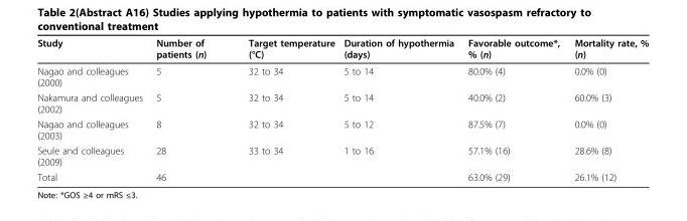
<table><thead><tr><td>Study</td><td>Number of patients (n)</td><td>Target temperature (°C)</td><td>Duration of hypothermia (days)</td><td>Favorable outcome*, % (n)</td><td>Mortality rate, % (n)</td></tr></thead><tbody><tr><td>Nagao and colleagues (2000)</td><td>5</td><td>32 to 34</td><td>5 to 14</td><td>80.0% (4)</td><td>0.0% (0)</td></tr><tr><td>Nakamura and colleagues (2002)</td><td>5</td><td>32 to 34</td><td>5 to 14</td><td>40.0% (2)</td><td>60.0% (3)</td></tr><tr><td>Nagao and colleagues (2003)</td><td>8</td><td>32 to 34</td><td>5 to 12</td><td>87.5% (7)</td><td>0.0% (0)</td></tr><tr><td>Seule and colleagues (2009)</td><td>28</td><td>33 to 34</td><td>1 to 16</td><td>57.1% (16)</td><td>28.6% (8)</td></tr><tr><td>Total</td><td>46</td><td></td><td></td><td>63.0% (29)</td><td>26.1% (12)</td></tr></tbody></table>